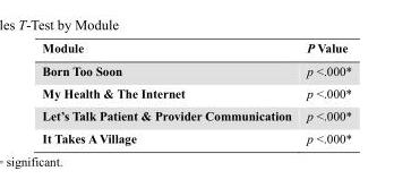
<table><thead><tr><td>Module</td><td>P Value</td></tr></thead><tbody><tr><td>Born Too Soon</td><td>p &lt;.000*</td></tr><tr><td>My Health &amp; The Internet</td><td>p &lt;.000*</td></tr><tr><td>Let’s Talk Patient &amp; Provider Communication</td><td>p &lt;.000*</td></tr><tr><td>It Takes A Village</td><td>p &lt;.000*</td></tr></tbody></table>